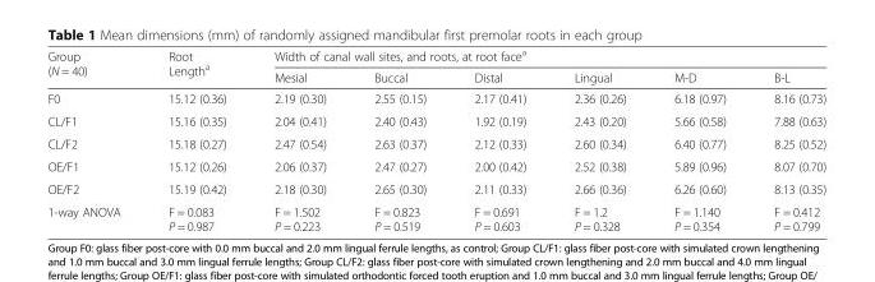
<table><thead><tr><td rowspan="2">Group (N = 40)</td><td rowspan="2">Root Length<sup>a</sup></td><td colspan="6">Width of canal wall sites, and roots, at root face<sup>a</sup></td></tr><tr><td>Mesial</td><td>Buccal</td><td>Distal</td><td>Lingual</td><td>M-D</td><td>B-L</td></tr></thead><tbody><tr><td>F0</td><td>15.12 (0.36)</td><td>2.19 (0.30)</td><td>2.55 (0.15)</td><td>2.17 (0.41)</td><td>2.36 (0.26)</td><td>6.18 (0.97)</td><td>8.16 (0.73)</td></tr><tr><td>CL/F1</td><td>15.16 (0.35)</td><td>2.04 (0.41)</td><td>2.40 (0.43)</td><td>1.92 (0.19)</td><td>2.43 (0.20)</td><td>5.66 (0.58)</td><td>7.88 (0.63)</td></tr><tr><td>CL/F2</td><td>15.18 (0.27)</td><td>2.47 (0.54)</td><td>2.63 (0.37)</td><td>2.12 (0.33)</td><td>2.60 (0.34)</td><td>6.40 (0.77)</td><td>8.25 (0.52)</td></tr><tr><td>OE/F1</td><td>15.12 (0.26)</td><td>2.06 (0.37)</td><td>2.47 (0.27)</td><td>2.00 (0.42)</td><td>2.52 (0.38)</td><td>5.89 (0.96)</td><td>8.07 (0.70)</td></tr><tr><td>OE/F2</td><td>15.19 (0.42)</td><td>2.18 (0.30)</td><td>2.65 (0.30)</td><td>2.11 (0.33)</td><td>2.66 (0.36)</td><td>6.26 (0.60)</td><td>8.13 (0.35)</td></tr><tr><td>1-way ANOVA</td><td>F = 0.083 P = 0.987</td><td>F = 1.502 P = 0.223</td><td>F = 0.823 P = 0.519</td><td>F = 0.691 P = 0.603</td><td>F = 1.2 P = 0.328</td><td>F = 1.140 P = 0.354</td><td>F = 0.412 P = 0.799</td></tr></tbody></table>